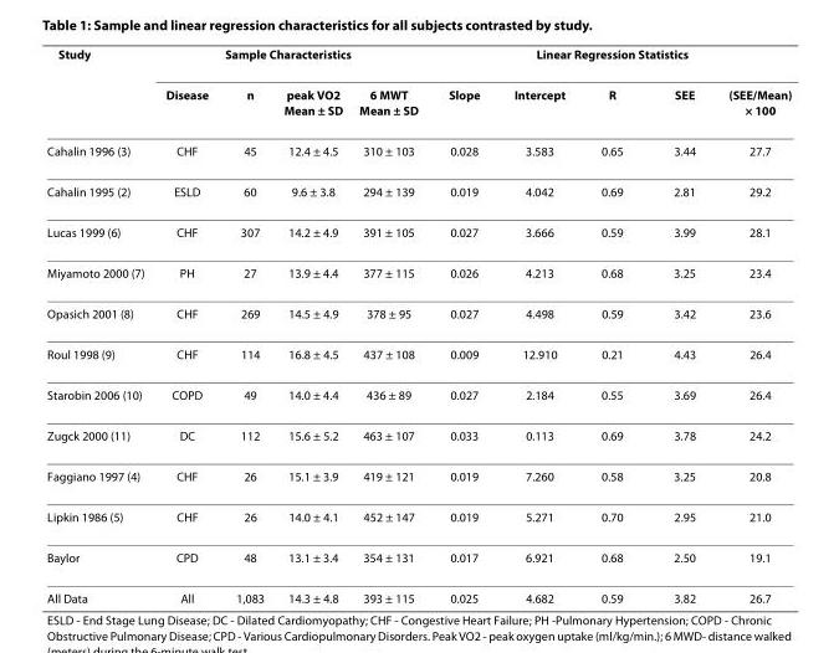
<table><thead><tr><td rowspan="2">Study</td><td colspan="4">Sample Characteristics</td><td colspan="5">Linear Regression Statistics</td></tr><tr><td>Disease</td><td>n</td><td>peak VO2 Mean ± SD</td><td>6 MWT Mean ± SD</td><td>Slope</td><td>Intercept</td><td>R</td><td>SEE</td><td>(SEE/Mean) × 100</td></tr></thead><tbody><tr><td>Cahalin 1996 (3)</td><td>CHF</td><td>45</td><td>12.4 ± 4.5</td><td>310 ± 103</td><td>0.028</td><td>3.583</td><td>0.65</td><td>3.44</td><td>27.7</td></tr><tr><td>Cahalin 1995 (2)</td><td>ESLD</td><td>60</td><td>9.6 ± 3.8</td><td>294 ± 139</td><td>0.019</td><td>4.042</td><td>0.69</td><td>2.81</td><td>29.2</td></tr><tr><td>Lucas 1999 (6)</td><td>CHF</td><td>307</td><td>14.2 ± 4.9</td><td>391 ± 105</td><td>0.027</td><td>3.666</td><td>0.59</td><td>3.99</td><td>28.1</td></tr><tr><td>Miyamoto 2000 (7)</td><td>PH</td><td>27</td><td>13.9 ± 4.4</td><td>377 ± 115</td><td>0.026</td><td>4.213</td><td>0.68</td><td>3.25</td><td>23.4</td></tr><tr><td>Opasich 2001 (8)</td><td>CHF</td><td>269</td><td>14.5 ± 4.9</td><td>378 ± 95</td><td>0.027</td><td>4.498</td><td>0.59</td><td>3.42</td><td>23.6</td></tr><tr><td>Roul 1998 (9)</td><td>CHF</td><td>114</td><td>16.8 ± 4.5</td><td>437 ± 108</td><td>0.009</td><td>12.910</td><td>0.21</td><td>4.43</td><td>26.4</td></tr><tr><td>Starobin 2006 (10)</td><td>COPD</td><td>49</td><td>14.0 ± 4.4</td><td>436 ± 89</td><td>0.027</td><td>2.184</td><td>0.55</td><td>3.69</td><td>26.4</td></tr><tr><td>Zugck 2000 (11)</td><td>DC</td><td>112</td><td>15.6 ± 5.2</td><td>463 ± 107</td><td>0.033</td><td>0.113</td><td>0.69</td><td>3.78</td><td>24.2</td></tr><tr><td>Faggiano 1997 (4)</td><td>CHF</td><td>26</td><td>15.1 ± 3.9</td><td>419 ± 121</td><td>0.019</td><td>7.260</td><td>0.58</td><td>3.25</td><td>20.8</td></tr><tr><td>Lipkin 1986 (5)</td><td>CHF</td><td>26</td><td>14.0 ± 4.1</td><td>452 ± 147</td><td>0.019</td><td>5.271</td><td>0.70</td><td>2.95</td><td>21.0</td></tr><tr><td>Baylor</td><td>CPD</td><td>48</td><td>13.1 ± 3.4</td><td>354 ± 131</td><td>0.017</td><td>6.921</td><td>0.68</td><td>2.50</td><td>19.1</td></tr><tr><td>All Data</td><td>All</td><td>1,083</td><td>14.3 ± 4.8</td><td>393 ± 115</td><td>0.025</td><td>4.682</td><td>0.59</td><td>3.82</td><td>26.7</td></tr></tbody></table>